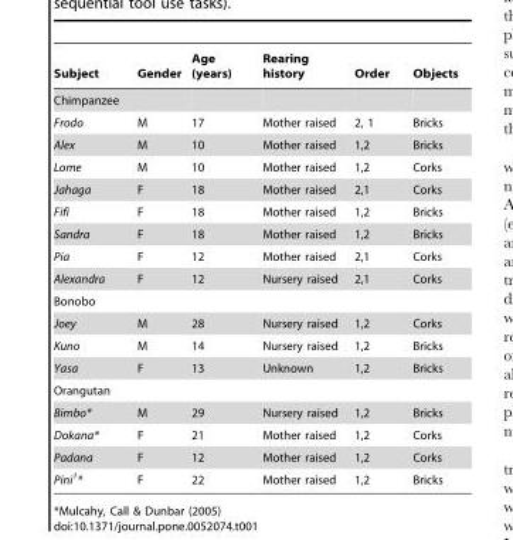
<table><thead><tr><td>Subject</td><td>Gender</td><td>Age (years)</td><td>Rearing history</td><td>Order</td><td>Objects</td></tr></thead><tbody><tr><td colspan="6">Chimpanzee</td></tr><tr><td>Frodo</td><td>M</td><td>17</td><td>Mother raised</td><td>2, 1</td><td>Bricks</td></tr><tr><td>Alex</td><td>M</td><td>10</td><td>Mother raised</td><td>1,2</td><td>Bricks</td></tr><tr><td>Lome</td><td>M</td><td>10</td><td>Mother raised</td><td>1,2</td><td>Corks</td></tr><tr><td>Jahaga</td><td>F</td><td>18</td><td>Mother raised</td><td>2,1</td><td>Corks</td></tr><tr><td>Fifi</td><td>F</td><td>18</td><td>Mother raised</td><td>1,2</td><td>Bricks</td></tr><tr><td>Sandra</td><td>F</td><td>18</td><td>Mother raised</td><td>1,2</td><td>Bricks</td></tr><tr><td>Pia</td><td>F</td><td>12</td><td>Mother raised</td><td>2,1</td><td>Corks</td></tr><tr><td>Alexandra</td><td>F</td><td>12</td><td>Nursery raised</td><td>2,1</td><td>Corks</td></tr><tr><td colspan="6">Bonobo</td></tr><tr><td>Joey</td><td>M</td><td>28</td><td>Nursery raised</td><td>1,2</td><td>Corks</td></tr><tr><td>Kuno</td><td>M</td><td>14</td><td>Nursery raised</td><td>1,2</td><td>Bricks</td></tr><tr><td>Yasa</td><td>F</td><td>13</td><td>Unknown</td><td>1,2</td><td>Bricks</td></tr><tr><td colspan="6">Orangutan</td></tr><tr><td>Bimbo*</td><td>M</td><td>29</td><td>Nursery raised</td><td>1,2</td><td>Bricks</td></tr><tr><td>Dokana*</td><td>F</td><td>21</td><td>Mother raised</td><td>1,2</td><td>Corks</td></tr><tr><td>Padana</td><td>F</td><td>12</td><td>Mother raised</td><td>1,2</td><td>Corks</td></tr><tr><td>Pini<sup>1</sup>*</td><td>F</td><td>22</td><td>Mother raised</td><td>1,2</td><td>Bricks</td></tr></tbody></table>